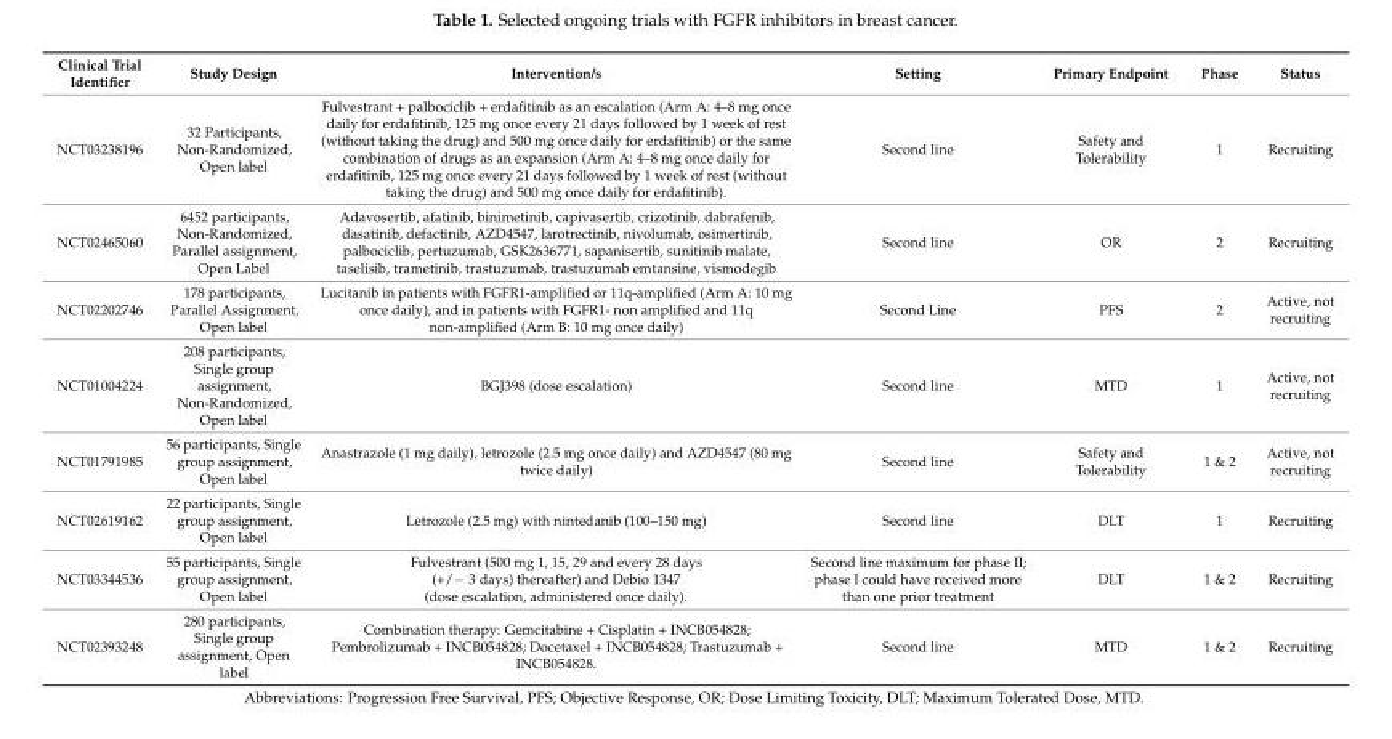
<table><thead><tr><td>Clinical Trial Identifier</td><td>Study Design</td><td>Intervention/s</td><td>Setting</td><td>Primary Endpoint</td><td>Phase</td><td>Status</td></tr></thead><tbody><tr><td>NCT03238196</td><td>32 Participants, Non-Randomized, Open label</td><td>Fulvestrant + palbociclib + erdafitinib as an escalation (Arm A: 4–8 mg once daily for erdafitinib, 125 mg once every 21 days followed by 1 week of rest (without taking the drug) and 500 mg once daily for erdafitinib) or the same combination of drugs as an expansion (Arm A: 4–8 mg once daily for erdafitinib, 125 mg once every 21 days followed by 1 week of rest (without taking the drug) and 500 mg once daily for erdafitinib).</td><td>Second line</td><td>Safety and Tolerability</td><td>1</td><td>Recruiting</td></tr><tr><td>NCT02465060</td><td>6452 participants, Non-Randomized, Parallel assignment, Open Label</td><td>Adavosertib, afatinib, binimetinib, capivasertib, crizotinib, dabrafenib, dasatinib, defactinib, AZD4547, larotrectinib, nivolumab, osimertinib, palbociclib, pertuzumab, GSK2636771, sapanisertib, sunitinib malate, taselisib, trametinib, trastuzumab, trastuzumab emtansine, vismodegib</td><td>Second line</td><td>OR</td><td>2</td><td>Recruiting</td></tr><tr><td>NCT02202746</td><td>178 participants, Parallel Assignment, Open label</td><td>Lucitanib in patients with FGFR1-amplified or 11q-amplified (Arm A: 10 mg once daily), and in patients with FGFR1- non amplified and 11q non-amplified (Arm B: 10 mg once daily)</td><td>Second Line</td><td>PFS</td><td>2</td><td>Active, not recruiting</td></tr><tr><td>NCT01004224</td><td>208 participants, Single group assignment, Non-Randomized, Open label</td><td>BGJ398 (dose escalation)</td><td>Second line</td><td>MTD</td><td>1</td><td>Active, not recruiting</td></tr><tr><td>NCT01791985</td><td>56 participants, Single group assignment, Open label</td><td>Anastrazole (1 mg daily), letrozole (2.5 mg once daily) and AZD4547 (80 mg twice daily)</td><td>Second line</td><td>Safety and Tolerability</td><td>1 &amp; 2</td><td>Active, not recruiting</td></tr><tr><td>NCT02619162</td><td>22 participants, Single group assignment, Open label</td><td>Letrozole (2.5 mg) with nintedanib (100–150 mg)</td><td>Second line</td><td>DLT</td><td>1</td><td>Recruiting</td></tr><tr><td>NCT03344536</td><td>55 participants, Single group assignment, Open label</td><td>Fulvestrant (500 mg 1, 15, 29 and every 28 days (+/− 3 days) thereafter) and Debio 1347 (dose escalation, administered once daily).</td><td>Second line maximum for phase II; phase I could have received more than one prior treatment</td><td>DLT</td><td>1 &amp; 2</td><td>Recruiting</td></tr><tr><td>NCT02393248</td><td>280 participants, Single group assignment, Open label</td><td>Combination therapy: Gemcitabine + Cisplatin + INCB054828; Pembrolizumab + INCB054828; Docetaxel + INCB054828; Trastuzumab + INCB054828.</td><td>Second line</td><td>MTD</td><td>1 &amp; 2</td><td>Recruiting</td></tr></tbody></table>